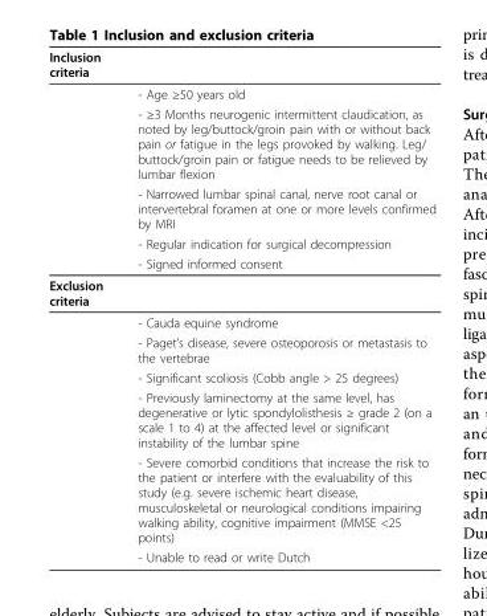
<table><thead><tr><td>Inclusion criteria</td><td></td></tr></thead><tbody><tr><td></td><td>- Age ≥50 years old</td></tr><tr><td></td><td>- ≥3 Months neurogenic intermittent claudication, as noted by leg/buttock/groin pain with or without back pain or fatigue in the legs provoked by walking. Leg/ buttock/groin pain or fatigue needs to be relieved by lumbar flexion</td></tr><tr><td></td><td>- Narrowed lumbar spinal canal, nerve root canal or intervertebral foramen at one or more levels confirmed by MRI</td></tr><tr><td></td><td>- Regular indication for surgical decompression</td></tr><tr><td></td><td>- Signed informed consent</td></tr><tr><td colspan="2">Exclusion criteria</td></tr><tr><td></td><td>- Cauda equine syndrome</td></tr><tr><td></td><td>- Paget’s disease, severe osteoporosis or metastasis to the vertebrae</td></tr><tr><td></td><td>- Significant scoliosis (Cobb angle &gt; 25 degrees)</td></tr><tr><td></td><td>- Previously laminectomy at the same level, has degenerative or lytic spondylolisthesis ≥ grade 2 (on a scale 1 to 4) at the affected level or significant instability of the lumbar spine</td></tr><tr><td></td><td>- Severe comorbid conditions that increase the risk to the patient or interfere with the evaluability of this study (e.g. severe ischemic heart disease, musculoskeletal or neurological conditions impairing walking ability, cognitive impairment (MMSE &lt;25 points)</td></tr><tr><td></td><td>- Unable to read or write Dutch</td></tr></tbody></table>